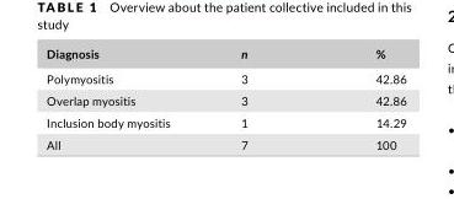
<table><thead><tr><td>Diagnosis</td><td>n</td><td>%</td></tr></thead><tbody><tr><td>Polymyositis</td><td>3</td><td>42.86</td></tr><tr><td>Overlap myositis</td><td>3</td><td>42.86</td></tr><tr><td>Inclusion body myositis</td><td>1</td><td>14.29</td></tr><tr><td>All</td><td>7</td><td>100</td></tr></tbody></table>